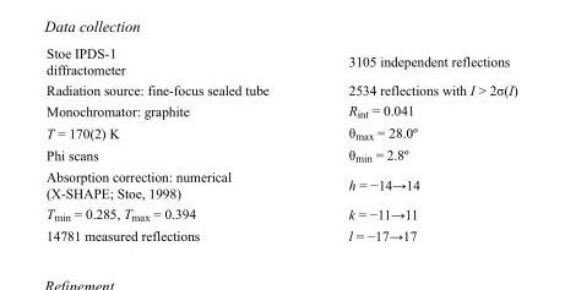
<table><tbody><tr><td>Stoe IPDS-1 diffractometer</td><td>3105 independent reflections</td></tr><tr><td>Radiation source: fine-focus sealed tube</td><td>2534 reflections with I &gt; 2σ(I)</td></tr><tr><td>Monochromator: graphite</td><td>R<sub>int</sub> = 0.041</td></tr><tr><td>T = 170(2) K</td><td>θ<sub>max</sub> = 28.0º</td></tr><tr><td>Phi scans</td><td>θ<sub>min</sub> = 2.8º</td></tr><tr><td>Absorption correction: numerical (X-SHAPE; Stoe, 1998)</td><td>h = −14→14</td></tr><tr><td>T<sub>min</sub> = 0.285, T<sub>max</sub> = 0.394</td><td>k = −11→11</td></tr><tr><td>14781 measured reflections</td><td>l = −17→17</td></tr></tbody></table>